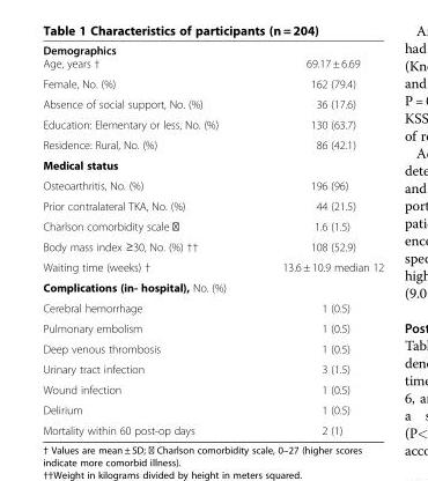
<table><thead><tr><td colspan="2">Demographics</td></tr><tr><td>Age, years †</td><td>69.17 ± 6.69</td></tr></thead><tbody><tr><td>Female, No. (%)</td><td>162 (79.4)</td></tr><tr><td>Absence of social support, No. (%)</td><td>36 (17.6)</td></tr><tr><td>Education: Elementary or less, No. (%)</td><td>130 (63.7)</td></tr><tr><td>Residence: Rural, No. (%)</td><td>86 (42.1)</td></tr><tr><td colspan="2">Medical status</td></tr><tr><td>Osteoarthritis, No. (%)</td><td>196 (96)</td></tr><tr><td>Prior contralateral TKA, No. (%)</td><td>44 (21.5)</td></tr><tr><td>Charlson comorbidity scale ▫</td><td>1.6 (1.5)</td></tr><tr><td>Body mass index ≥30, No. (%) ††</td><td>108 (52.9)</td></tr><tr><td>Waiting time (weeks) †</td><td>13.6 ± 10.9 median 12</td></tr><tr><td colspan="2">Complications (in- hospital), No. (%)</td></tr><tr><td>Cerebral hemorrhage</td><td>1 (0.5)</td></tr><tr><td>Pulmonary embolism</td><td>1 (0.5)</td></tr><tr><td>Deep venous thrombosis</td><td>1 (0.5)</td></tr><tr><td>Urinary tract infection</td><td>3 (1.5)</td></tr><tr><td>Wound infection</td><td>1 (0.5)</td></tr><tr><td>Delirium</td><td>1 (0.5)</td></tr><tr><td>Mortality within 60 post-op days</td><td>2 (1)</td></tr></tbody></table>